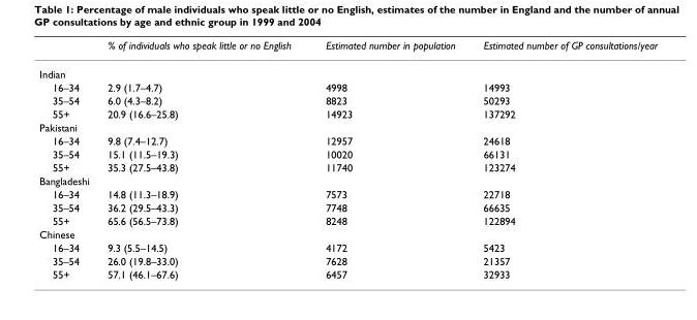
<table><thead><tr><td></td><td>% of individuals who speak little or no English</td><td>Estimated number in population</td><td>Estimated number of GP consultations/year</td></tr></thead><tbody><tr><td colspan="4">Indian</td></tr><tr><td>16–34</td><td>2.9 (1.7–4.7)</td><td>4998</td><td>14993</td></tr><tr><td>35–54</td><td>6.0 (4.3–8.2)</td><td>8823</td><td>50293</td></tr><tr><td>55+</td><td>20.9 (16.6–25.8)</td><td>14923</td><td>137292</td></tr><tr><td colspan="4">Pakistani</td></tr><tr><td>16–34</td><td>9.8 (7.4–12.7)</td><td>12957</td><td>24618</td></tr><tr><td>35–54</td><td>15.1 (11.5–19.3)</td><td>10020</td><td>66131</td></tr><tr><td>55+</td><td>35.3 (27.5–43.8)</td><td>11740</td><td>123274</td></tr><tr><td colspan="4">Bangladeshi</td></tr><tr><td>16–34</td><td>14.8 (11.3–18.9)</td><td>7573</td><td>22718</td></tr><tr><td>35–54</td><td>36.2 (29.5–43.3)</td><td>7748</td><td>66635</td></tr><tr><td>55+</td><td>65.6 (56.5–73.8)</td><td>8248</td><td>122894</td></tr><tr><td colspan="4">Chinese</td></tr><tr><td>16–34</td><td>9.3 (5.5–14.5)</td><td>4172</td><td>5423</td></tr><tr><td>35–54</td><td>26.0 (19.8–33.0)</td><td>7628</td><td>21357</td></tr><tr><td>55+</td><td>57.1 (46.1–67.6)</td><td>6457</td><td>32933</td></tr></tbody></table>